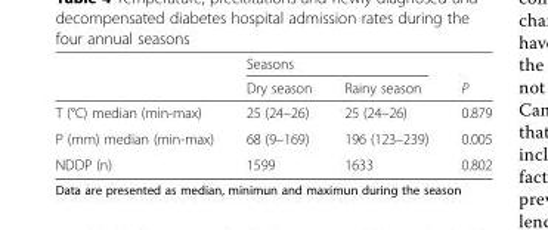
<table><thead><tr><td rowspan="2"></td><td colspan="2">Seasons</td><td rowspan="2">P</td></tr><tr><td>Dry season</td><td>Rainy season</td></tr></thead><tbody><tr><td>T (°C) median (min-max)</td><td>25 (24–26)</td><td>25 (24–26)</td><td>0.879</td></tr><tr><td>P (mm) median (min-max)</td><td>68 (9–169)</td><td>196 (123–239)</td><td>0.005</td></tr><tr><td>NDDP (n)</td><td>1599</td><td>1633</td><td>0.802</td></tr></tbody></table>